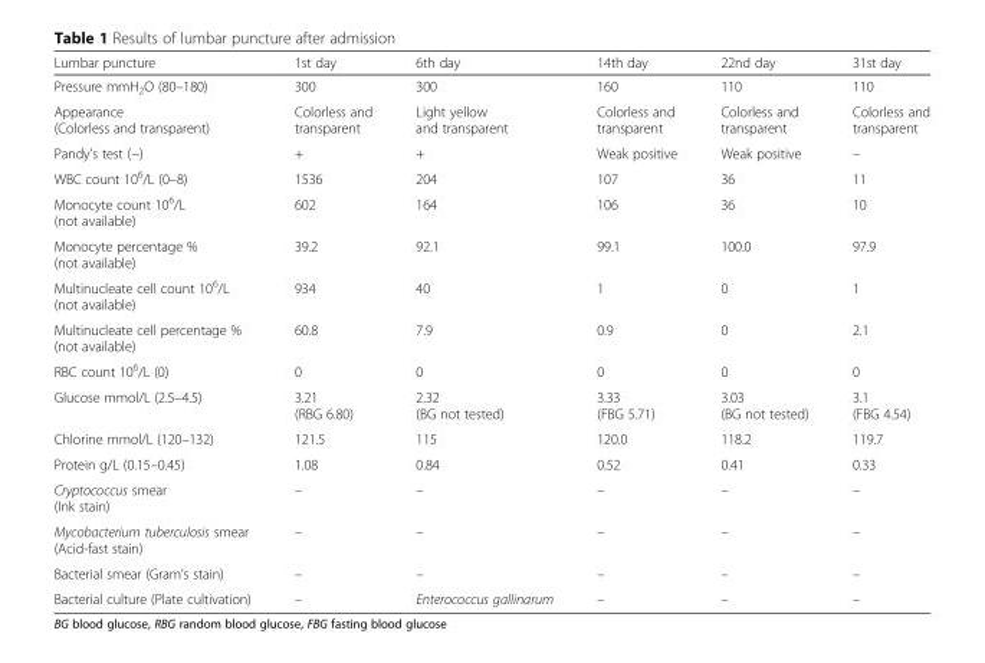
<table><thead><tr><td>Lumbar puncture</td><td>1st day</td><td>6th day</td><td>14th day</td><td>22nd day</td><td>31st day</td></tr></thead><tbody><tr><td>Pressure mmH<sub>2</sub>O (80–180)</td><td>300</td><td>300</td><td>160</td><td>110</td><td>110</td></tr><tr><td>Appearance (Colorless and transparent)</td><td>Colorless and transparent</td><td>Light yellow and transparent</td><td>Colorless and transparent</td><td>Colorless and transparent</td><td>Colorless and transparent</td></tr><tr><td>Pandy’s test (−)</td><td>+</td><td>+</td><td>Weak positive</td><td>Weak positive</td><td>–</td></tr><tr><td>WBC count 10<sup>6</sup>/L (0–8)</td><td>1536</td><td>204</td><td>107</td><td>36</td><td>11</td></tr><tr><td>Monocyte count 10<sup>6</sup>/L (not available)</td><td>602</td><td>164</td><td>106</td><td>36</td><td>10</td></tr><tr><td>Monocyte percentage % (not available)</td><td>39.2</td><td>92.1</td><td>99.1</td><td>100.0</td><td>97.9</td></tr><tr><td>Multinucleate cell count 10<sup>6</sup>/L (not available)</td><td>934</td><td>40</td><td>1</td><td>0</td><td>1</td></tr><tr><td>Multinucleate cell percentage % (not available)</td><td>60.8</td><td>7.9</td><td>0.9</td><td>0</td><td>2.1</td></tr><tr><td>RBC count 10<sup>6</sup>/L (0)</td><td>0</td><td>0</td><td>0</td><td>0</td><td>0</td></tr><tr><td>Glucose mmol/L (2.5–4.5)</td><td>3.21 (RBG 6.80)</td><td>2.32 (BG not tested)</td><td>3.33 (FBG 5.71)</td><td>3.03 (BG not tested)</td><td>3.1 (FBG 4.54)</td></tr><tr><td>Chlorine mmol/L (120–132)</td><td>121.5</td><td>115</td><td>120.0</td><td>118.2</td><td>119.7</td></tr><tr><td>Protein g/L (0.15–0.45)</td><td>1.08</td><td>0.84</td><td>0.52</td><td>0.41</td><td>0.33</td></tr><tr><td>Cryptococcus smear (Ink stain)</td><td>–</td><td>–</td><td>–</td><td>–</td><td>–</td></tr><tr><td>Mycobacterium tuberculosis smear (Acid-fast stain)</td><td>–</td><td>–</td><td>–</td><td>–</td><td>–</td></tr><tr><td>Bacterial smear (Gram’s stain)</td><td>–</td><td>–</td><td>–</td><td>–</td><td>–</td></tr><tr><td>Bacterial culture (Plate cultivation)</td><td>–</td><td>Enterococcus gallinarum</td><td>–</td><td>–</td><td>–</td></tr></tbody></table>